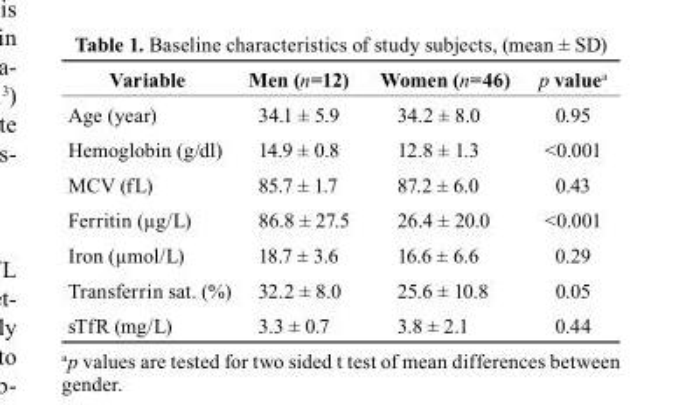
<table><thead><tr><td>Variable</td><td>Men (n=12)</td><td>Women (n=46)</td><td>p value<sup>a</sup></td></tr></thead><tbody><tr><td>Age (year)</td><td>34.1 ± 5.9</td><td>34.2 ± 8.0</td><td>0.95</td></tr><tr><td>Hemoglobin (g/dl)</td><td>14.9 ± 0.8</td><td>12.8 ± 1.3</td><td>&lt;0.001</td></tr><tr><td>MCV (fL)</td><td>85.7 ± 1.7</td><td>87.2 ± 6.0</td><td>0.43</td></tr><tr><td>Ferritin (µg/L)</td><td>86.8 ± 27.5</td><td>26.4 ± 20.0</td><td>&lt;0.001</td></tr><tr><td>Iron (µmol/L)</td><td>18.7 ± 3.6</td><td>16.6 ± 6.6</td><td>0.29</td></tr><tr><td>Transferrin sat. (%)</td><td>32.2 ± 8.0</td><td>25.6 ± 10.8</td><td>0.05</td></tr><tr><td>sTfR (mg/L)</td><td>3.3 ± 0.7</td><td>3.8 ± 2.1</td><td>0.44</td></tr></tbody></table>